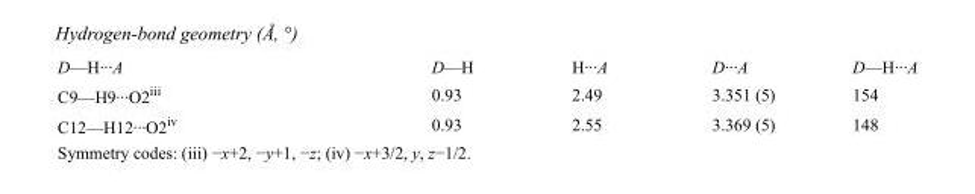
<table><tbody><tr><td>D—H···A</td><td>D—H</td><td>H···A</td><td>D···A</td><td>D—H···A</td></tr><tr><td>C9—H9···O2<sup>iii</sup></td><td>0.93</td><td>2.49</td><td>3.351 (5)</td><td>154</td></tr><tr><td>C12—H12···O2<sup>iv</sup></td><td>0.93</td><td>2.55</td><td>3.369 (5)</td><td>148</td></tr></tbody></table>